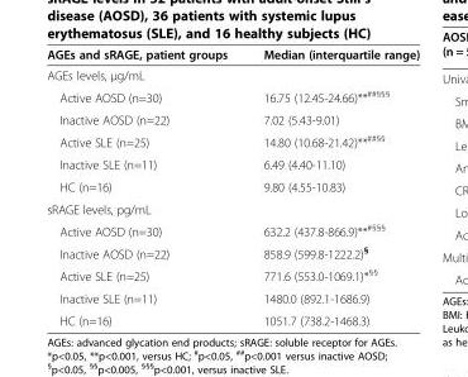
<table><thead><tr><td>AGEs and sRAGE, patient groups</td><td>Median (interquartile range)</td></tr></thead><tbody><tr><td colspan="2">AGEs levels, μg/mL</td></tr><tr><td>Active AOSD (n=30)</td><td>16.75 (12.45-24.66)**<sup>##§§§</sup></td></tr><tr><td>Inactive AOSD (n=22)</td><td>7.02 (5.43-9.01)</td></tr><tr><td>Active SLE (n=25)</td><td>14.80 (10.68-21.42)**<sup>##§§</sup></td></tr><tr><td>Inactive SLE (n=11)</td><td>6.49 (4.40-11.10)</td></tr><tr><td>HC (n=16)</td><td>9.80 (4.55-10.83)</td></tr><tr><td colspan="2">sRAGE levels, pg/mL</td></tr><tr><td>Active AOSD (n=30)</td><td>632.2 (437.8-866.9)**<sup>#§§§</sup></td></tr><tr><td>Inactive AOSD (n=22)</td><td>858.9 (599.8-1222.2)<sup>§</sup></td></tr><tr><td>Active SLE (n=25)</td><td>771.6 (553.0-1069.1)*<sup>§§</sup></td></tr><tr><td>Inactive SLE (n=11)</td><td>1480.0 (892.1-1686.9)</td></tr><tr><td>HC (n=16)</td><td>1051.7 (738.2-1468.3)</td></tr></tbody></table>